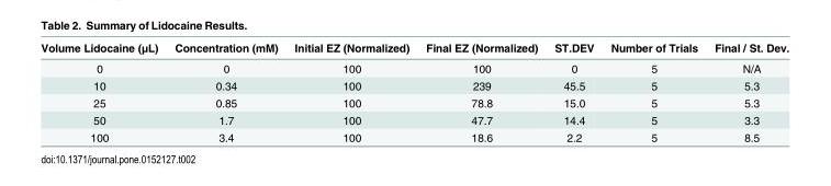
<table><thead><tr><td>Volume Lidocaine (μL)</td><td>Concentration (mM)</td><td>Initial EZ (Normalized)</td><td>Final EZ (Normalized)</td><td>ST.DEV</td><td>Number of Trials</td><td>Final / St. Dev.</td></tr></thead><tbody><tr><td>0</td><td>0</td><td>100</td><td>100</td><td>0</td><td>5</td><td>N/A</td></tr><tr><td>10</td><td>0.34</td><td>100</td><td>239</td><td>45.5</td><td>5</td><td>5.3</td></tr><tr><td>25</td><td>0.85</td><td>100</td><td>78.8</td><td>15.0</td><td>5</td><td>5.3</td></tr><tr><td>50</td><td>1.7</td><td>100</td><td>47.7</td><td>14.4</td><td>5</td><td>3.3</td></tr><tr><td>100</td><td>3.4</td><td>100</td><td>18.6</td><td>2.2</td><td>5</td><td>8.5</td></tr></tbody></table>